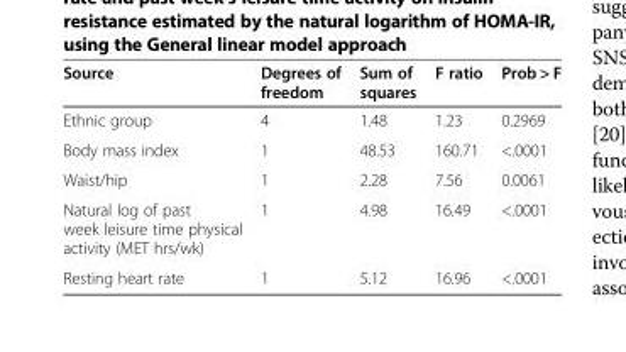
<table><thead><tr><td>Source</td><td>Degrees of freedom</td><td>Sum of squares</td><td>F ratio</td><td>Prob &gt; F</td></tr></thead><tbody><tr><td>Ethnic group</td><td>4</td><td>1.48</td><td>1.23</td><td>0.2969</td></tr><tr><td>Body mass index</td><td>1</td><td>48.53</td><td>160.71</td><td>&lt;.0001</td></tr><tr><td>Waist/hip</td><td>1</td><td>2.28</td><td>7.56</td><td>0.0061</td></tr><tr><td>Natural log of past week leisure time physical activity (MET hrs/wk)</td><td>1</td><td>4.98</td><td>16.49</td><td>&lt;.0001</td></tr><tr><td>Resting heart rate</td><td>1</td><td>5.12</td><td>16.96</td><td>&lt;.0001</td></tr></tbody></table>